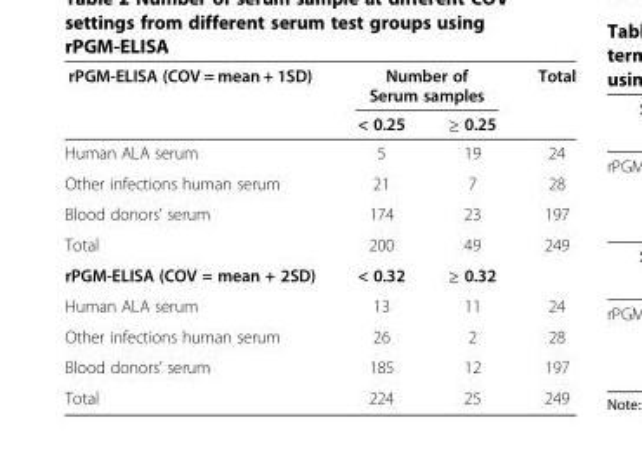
<table><thead><tr><td rowspan="2">rPGM-ELISA (COV = mean + 1SD)</td><td colspan="2">Number of Serum samples</td><td rowspan="2">Total</td></tr><tr><td>&lt; 0.25</td><td>≥ 0.25</td></tr></thead><tbody><tr><td>Human ALA serum</td><td>5</td><td>19</td><td>24</td></tr><tr><td>Other infections human serum</td><td>21</td><td>7</td><td>28</td></tr><tr><td>Blood donors’ serum</td><td>174</td><td>23</td><td>197</td></tr><tr><td>Total</td><td>200</td><td>49</td><td>249</td></tr><tr><td>rPGM-ELISA (COV = mean + 2SD)</td><td>&lt; 0.32</td><td>≥ 0.32</td><td></td></tr><tr><td>Human ALA serum</td><td>13</td><td>11</td><td>24</td></tr><tr><td>Other infections human serum</td><td>26</td><td>2</td><td>28</td></tr><tr><td>Blood donors’ serum</td><td>185</td><td>12</td><td>197</td></tr><tr><td>Total</td><td>224</td><td>25</td><td>249</td></tr></tbody></table>